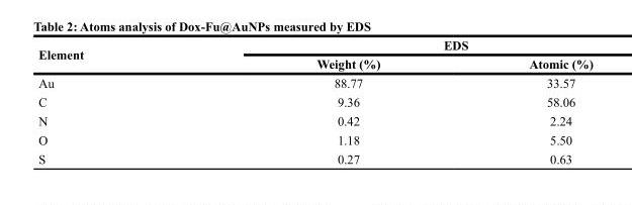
<table><thead><tr><td rowspan="2">Element</td><td colspan="2">EDS</td></tr><tr><td>Weight (%)</td><td>Atomic (%)</td></tr></thead><tbody><tr><td>Au</td><td>88.77</td><td>33.57</td></tr><tr><td>C</td><td>9.36</td><td>58.06</td></tr><tr><td>N</td><td>0.42</td><td>2.24</td></tr><tr><td>O</td><td>1.18</td><td>5.50</td></tr><tr><td>S</td><td>0.27</td><td>0.63</td></tr></tbody></table>